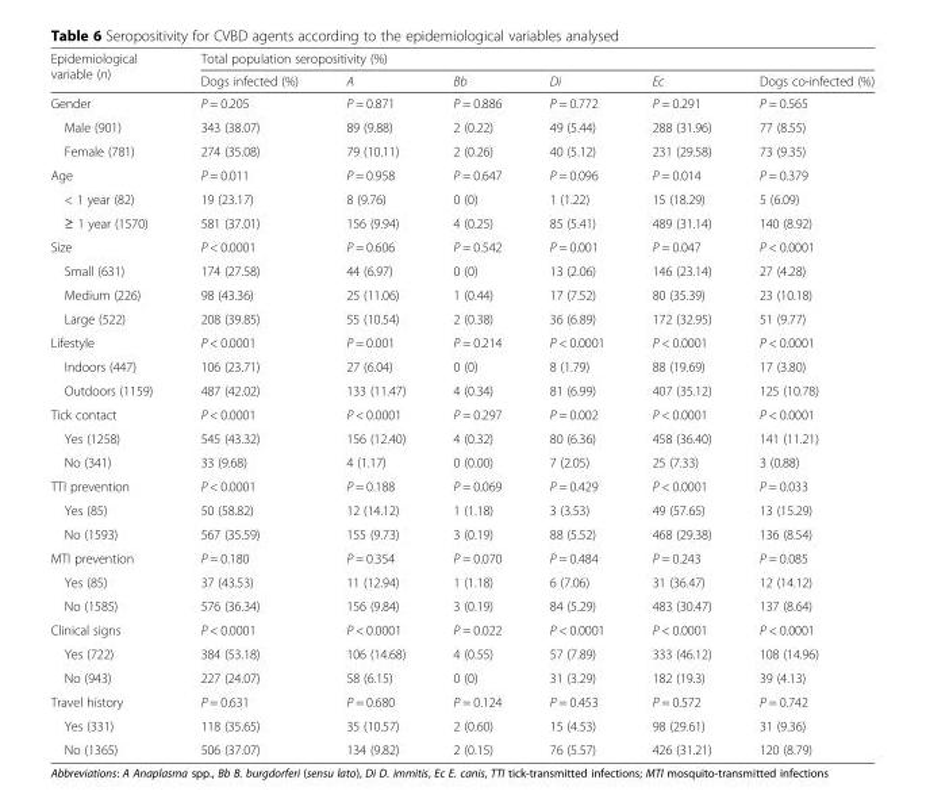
<table><thead><tr><td rowspan="2">Epidemiological variable (n)</td><td colspan="6">Total population seropositivity (%)</td></tr><tr><td>Dogs infected (%)</td><td>A</td><td>Bb</td><td>Di</td><td>Ec</td><td>Dogs co-infected (%)</td></tr></thead><tbody><tr><td>Gender</td><td>P = 0.205</td><td>P = 0.871</td><td>P = 0.886</td><td>P = 0.772</td><td>P = 0.291</td><td>P = 0.565</td></tr><tr><td>Male (901)</td><td>343 (38.07)</td><td>89 (9.88)</td><td>2 (0.22)</td><td>49 (5.44)</td><td>288 (31.96)</td><td>77 (8.55)</td></tr><tr><td>Female (781)</td><td>274 (35.08)</td><td>79 (10.11)</td><td>2 (0.26)</td><td>40 (5.12)</td><td>231 (29.58)</td><td>73 (9.35)</td></tr><tr><td>Age</td><td>P = 0.011</td><td>P = 0.958</td><td>P = 0.647</td><td>P = 0.096</td><td>P = 0.014</td><td>P = 0.379</td></tr><tr><td>&lt; 1 year (82)</td><td>19 (23.17)</td><td>8 (9.76)</td><td>0 (0)</td><td>1 (1.22)</td><td>15 (18.29)</td><td>5 (6.09)</td></tr><tr><td>≥ 1 year (1570)</td><td>581 (37.01)</td><td>156 (9.94)</td><td>4 (0.25)</td><td>85 (5.41)</td><td>489 (31.14)</td><td>140 (8.92)</td></tr><tr><td>Size</td><td>P &lt; 0.0001</td><td>P = 0.606</td><td>P = 0.542</td><td>P = 0.001</td><td>P = 0.047</td><td>P &lt; 0.0001</td></tr><tr><td>Small (631)</td><td>174 (27.58)</td><td>44 (6.97)</td><td>0 (0)</td><td>13 (2.06)</td><td>146 (23.14)</td><td>27 (4.28)</td></tr><tr><td>Medium (226)</td><td>98 (43.36)</td><td>25 (11.06)</td><td>1 (0.44)</td><td>17 (7.52)</td><td>80 (35.39)</td><td>23 (10.18)</td></tr><tr><td>Large (522)</td><td>208 (39.85)</td><td>55 (10.54)</td><td>2 (0.38)</td><td>36 (6.89)</td><td>172 (32.95)</td><td>51 (9.77)</td></tr><tr><td>Lifestyle</td><td>P &lt; 0.0001</td><td>P = 0.001</td><td>P = 0.214</td><td>P &lt; 0.0001</td><td>P &lt; 0.0001</td><td>P &lt; 0.0001</td></tr><tr><td>Indoors (447)</td><td>106 (23.71)</td><td>27 (6.04)</td><td>0 (0)</td><td>8 (1.79)</td><td>88 (19.69)</td><td>17 (3.80)</td></tr><tr><td>Outdoors (1159)</td><td>487 (42.02)</td><td>133 (11.47)</td><td>4 (0.34)</td><td>81 (6.99)</td><td>407 (35.12)</td><td>125 (10.78)</td></tr><tr><td>Tick contact</td><td>P &lt; 0.0001</td><td>P &lt; 0.0001</td><td>P = 0.297</td><td>P = 0.002</td><td>P &lt; 0.0001</td><td>P &lt; 0.0001</td></tr><tr><td>Yes (1258)</td><td>545 (43.32)</td><td>156 (12.40)</td><td>4 (0.32)</td><td>80 (6.36)</td><td>458 (36.40)</td><td>141 (11.21)</td></tr><tr><td>No (341)</td><td>33 (9.68)</td><td>4 (1.17)</td><td>0 (0.00)</td><td>7 (2.05)</td><td>25 (7.33)</td><td>3 (0.88)</td></tr><tr><td>TTI prevention</td><td>P &lt; 0.0001</td><td>P = 0.188</td><td>P = 0.069</td><td>P = 0.429</td><td>P &lt; 0.0001</td><td>P = 0.033</td></tr><tr><td>Yes (85)</td><td>50 (58.82)</td><td>12 (14.12)</td><td>1 (1.18)</td><td>3 (3.53)</td><td>49 (57.65)</td><td>13 (15.29)</td></tr><tr><td>No (1593)</td><td>567 (35.59)</td><td>155 (9.73)</td><td>3 (0.19)</td><td>88 (5.52)</td><td>468 (29.38)</td><td>136 (8.54)</td></tr><tr><td>MTI prevention</td><td>P = 0.180</td><td>P = 0.354</td><td>P = 0.070</td><td>P = 0.484</td><td>P = 0.243</td><td>P = 0.085</td></tr><tr><td>Yes (85)</td><td>37 (43.53)</td><td>11 (12.94)</td><td>1 (1.18)</td><td>6 (7.06)</td><td>31 (36.47)</td><td>12 (14.12)</td></tr><tr><td>No (1585)</td><td>576 (36.34)</td><td>156 (9.84)</td><td>3 (0.19)</td><td>84 (5.29)</td><td>483 (30.47)</td><td>137 (8.64)</td></tr><tr><td>Clinical signs</td><td>P &lt; 0.0001</td><td>P &lt; 0.0001</td><td>P = 0.022</td><td>P &lt; 0.0001</td><td>P &lt; 0.0001</td><td>P &lt; 0.0001</td></tr><tr><td>Yes (722)</td><td>384 (53.18)</td><td>106 (14.68)</td><td>4 (0.55)</td><td>57 (7.89)</td><td>333 (46.12)</td><td>108 (14.96)</td></tr><tr><td>No (943)</td><td>227 (24.07)</td><td>58 (6.15)</td><td>0 (0)</td><td>31 (3.29)</td><td>182 (19.3)</td><td>39 (4.13)</td></tr><tr><td>Travel history</td><td>P = 0.631</td><td>P = 0.680</td><td>P = 0.124</td><td>P = 0.453</td><td>P = 0.572</td><td>P = 0.742</td></tr><tr><td>Yes (331)</td><td>118 (35.65)</td><td>35 (10.57)</td><td>2 (0.60)</td><td>15 (4.53)</td><td>98 (29.61)</td><td>31 (9.36)</td></tr><tr><td>No (1365)</td><td>506 (37.07)</td><td>134 (9.82)</td><td>2 (0.15)</td><td>76 (5.57)</td><td>426 (31.21)</td><td>120 (8.79)</td></tr></tbody></table>